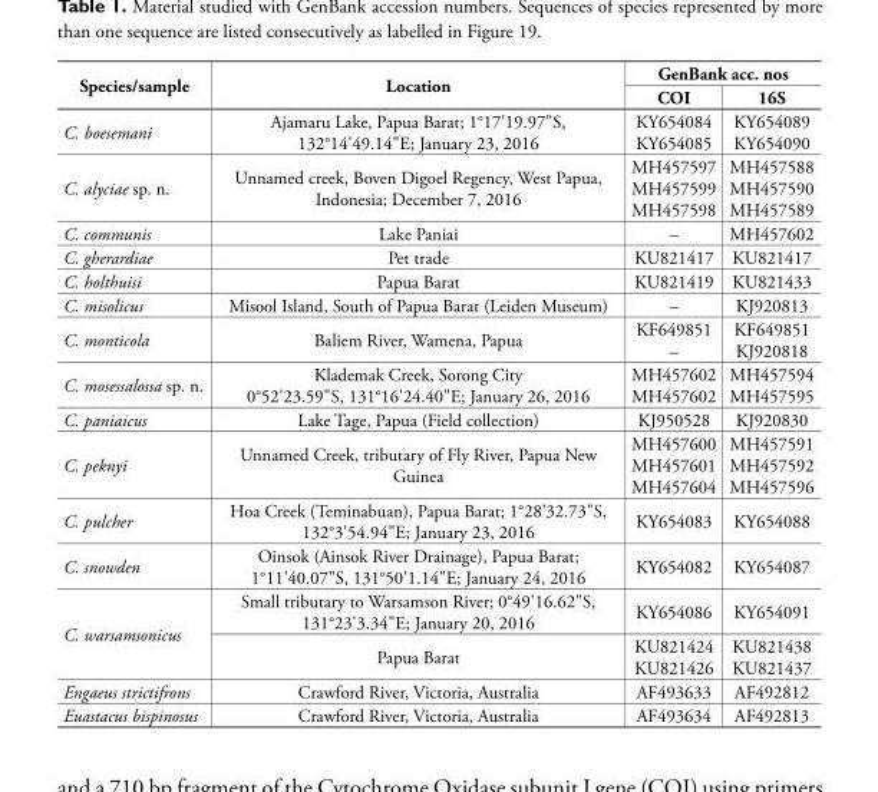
<table><thead><tr><td rowspan="2">Species/sample</td><td rowspan="2">Location</td><td colspan="2">GenBank acc. nos</td></tr><tr><td>COI</td><td>16S</td></tr></thead><tbody><tr><td>C. boesemani</td><td>Ajamaru Lake, Papua Barat; 1°17&#x27;19.97&quot;S, 132°14&#x27;49.14&quot;E; January 23, 2016</td><td>KY654084 KY654085</td><td>KY654089 KY654090</td></tr><tr><td>C. alyciae sp. n.</td><td>Unnamed creek, Boven Digoel Regency, West Papua, Indonesia; December 7, 2016</td><td>MH457597 MH457599 MH457598</td><td>MH457588 MH457590 MH457589</td></tr><tr><td>C. communis</td><td>Lake Paniai</td><td>–</td><td>MH457602</td></tr><tr><td>C. gherardiae</td><td>Pet trade</td><td>KU821417</td><td>KU821417</td></tr><tr><td>C. holthuisi</td><td>Papua Barat</td><td>KU821419</td><td>KU821433</td></tr><tr><td>C. misolicus</td><td>Misool Island, South of Papua Barat (Leiden Museum)</td><td>–</td><td>KJ920813</td></tr><tr><td>C. monticola</td><td>Baliem River, Wamena, Papua</td><td>KF649851 –</td><td>KF649851 KJ920818</td></tr><tr><td>C. mosessalossa sp. n.</td><td>Klademak Creek, Sorong City 0°52&#x27;23.59&quot;S, 131°16&#x27;24.40&quot;E; January 26, 2016</td><td>MH457602 MH457602</td><td>MH457594 MH457595</td></tr><tr><td>C. paniaicus</td><td>Lake Tage, Papua (Field collection)</td><td>KJ950528</td><td>KJ920830</td></tr><tr><td>C. peknyi</td><td>Unnamed Creek, tributary of Fly River, Papua New Guinea</td><td>MH457600 MH457601 MH457604</td><td>MH457591 MH457592 MH457596</td></tr><tr><td>C. pulcher</td><td>Hoa Creek (Teminabuan), Papua Barat; 1°28&#x27;32.73&quot;S, 132°3&#x27;54.94&quot;E; January 23, 2016</td><td>KY654083</td><td>KY654088</td></tr><tr><td>C. snowden</td><td>Oinsok (Ainsok River Drainage), Papua Barat; 1°11&#x27;40.07&quot;S, 131°50&#x27;1.14&quot;E; January 24, 2016</td><td>KY654082</td><td>KY654087</td></tr><tr><td rowspan="2">C. warsamsonicus</td><td>Small tributary to Warsamson River; 0°49&#x27;16.62&quot;S, 131°23&#x27;3.34&quot;E; January 20, 2016</td><td>KY654086</td><td>KY654091</td></tr><tr><td>Papua Barat</td><td>KU821424 KU821426</td><td>KU821438 KU821437</td></tr><tr><td>Engaeus strictifrons</td><td>Crawford River, Victoria, Australia</td><td>AF493633</td><td>AF492812</td></tr><tr><td>Euastacus bispinosus</td><td>Crawford River, Victoria, Australia</td><td>AF493634</td><td>AF492813</td></tr></tbody></table>